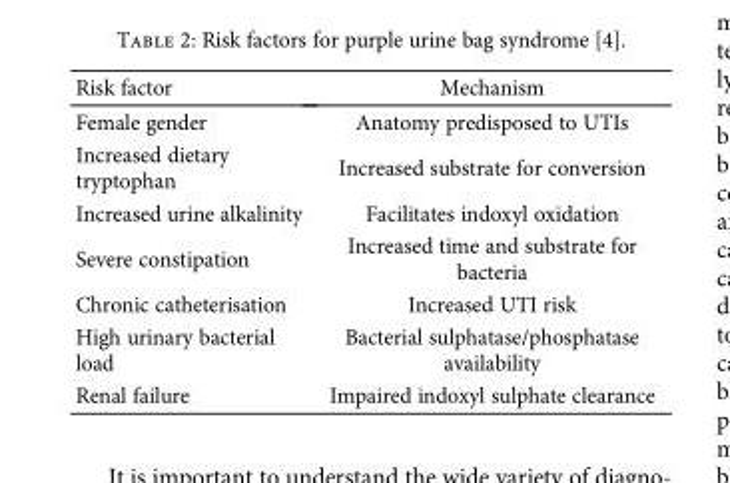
<table><thead><tr><td>Risk factor</td><td>Mechanism</td></tr></thead><tbody><tr><td>Female gender</td><td>Anatomy predisposed to UTIs</td></tr><tr><td>Increased dietary tryptophan</td><td>Increased substrate for conversion</td></tr><tr><td>Increased urine alkalinity</td><td>Facilitates indoxyl oxidation</td></tr><tr><td>Severe constipation</td><td>Increased time and substrate for bacteria</td></tr><tr><td>Chronic catheterisation</td><td>Increased UTI risk</td></tr><tr><td>High urinary bacterial load</td><td>Bacterial sulphatase/phosphatase availability</td></tr><tr><td>Renal failure</td><td>Impaired indoxyl sulphate clearance</td></tr></tbody></table>